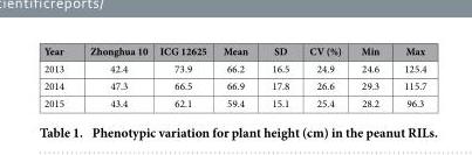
<table><thead><tr><td>Year</td><td>Zhonghua 10</td><td>ICG 12625</td><td>Mean</td><td>SD</td><td>CV (%)</td><td>Min</td><td>Max</td></tr></thead><tbody><tr><td>2013</td><td>42.4</td><td>73.9</td><td>66.2</td><td>16.5</td><td>24.9</td><td>24.6</td><td>125.4</td></tr><tr><td>2014</td><td>47.3</td><td>66.5</td><td>66.9</td><td>17.8</td><td>26.6</td><td>29.3</td><td>115.7</td></tr><tr><td>2015</td><td>43.4</td><td>62.1</td><td>59.4</td><td>15.1</td><td>25.4</td><td>28.2</td><td>96.3</td></tr></tbody></table>